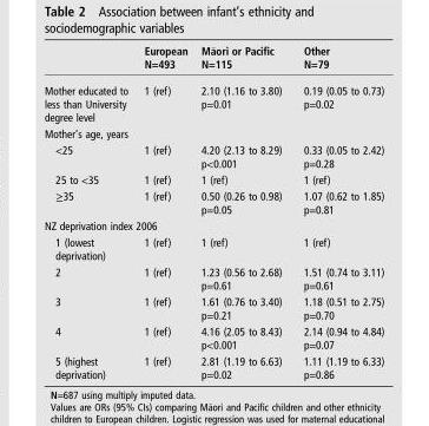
<table><thead><tr><td></td><td>European N=493</td><td>M�aori or Pacific N=115</td><td>Other N=79</td></tr></thead><tbody><tr><td>Mother educated to less than University degree level</td><td>1 (ref)</td><td>2.10 (1.16 to 3.80) p=0.01</td><td>0.19 (0.05 to 0.73) p=0.02</td></tr><tr><td colspan="4">Mother’s age, years</td></tr><tr><td>&lt;25</td><td>1 (ref)</td><td>4.20 (2.13 to 8.29) p&lt;0.001</td><td>0.33 (0.05 to 2.42) p=0.28</td></tr><tr><td>25 to &lt;35</td><td>1 (ref)</td><td>1 (ref)</td><td>1 (ref)</td></tr><tr><td>≥35</td><td>1 (ref)</td><td>0.50 (0.26 to 0.98) p=0.05</td><td>1.07 (0.62 to 1.85) p=0.81</td></tr><tr><td colspan="4">NZ deprivation index 2006</td></tr><tr><td>1 (lowest deprivation)</td><td>1 (ref)</td><td>1 (ref)</td><td>1 (ref)</td></tr><tr><td>2</td><td>1 (ref)</td><td>1.23 (0.56 to 2.68) p=0.61</td><td>1.51 (0.74 to 3.11) p=0.61</td></tr><tr><td>3</td><td>1 (ref)</td><td>1.61 (0.76 to 3.40) p=0.21</td><td>1.18 (0.51 to 2.75) p=0.70</td></tr><tr><td>4</td><td>1 (ref)</td><td>4.16 (2.05 to 8.43) p&lt;0.001</td><td>2.14 (0.94 to 4.84) p=0.07</td></tr><tr><td>5 (highest deprivation)</td><td>1 (ref)</td><td>2.81 (1.19 to 6.63) p=0.02</td><td>1.11 (1.19 to 6.33) p=0.86</td></tr></tbody></table>